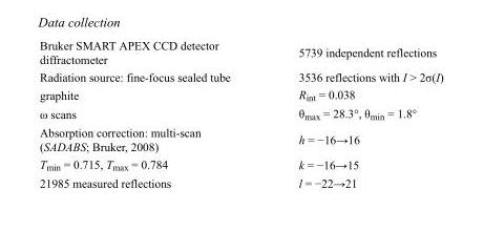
<table><tbody><tr><td>Bruker SMART APEX CCD detector diffractometer</td><td>5739 independent reflections</td></tr><tr><td>Radiation source: fine-focus sealed tube</td><td>3536 reflections with I &gt; 2σ(I)</td></tr><tr><td>graphite</td><td>R<sub>int</sub> = 0.038</td></tr><tr><td>ω scans</td><td>θ<sub>max</sub> = 28.3°, θ<sub>min</sub> = 1.8°</td></tr><tr><td>Absorption correction: multi-scan (SADABS; Bruker, 2008)</td><td>h = −16→16</td></tr><tr><td>T<sub>min</sub> = 0.715, T<sub>max</sub> = 0.784</td><td>k = −16→15</td></tr><tr><td>21985 measured reflections</td><td>l = −22→21</td></tr></tbody></table>